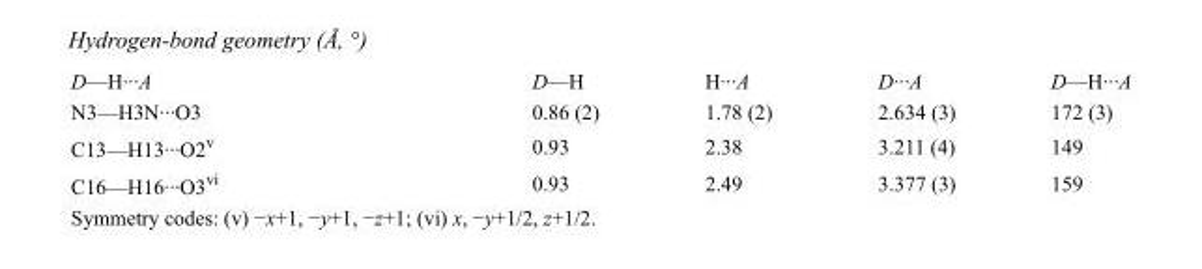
<table><tbody><tr><td>D—H···A</td><td>D—H</td><td>H···A</td><td>D···A</td><td>D—H···A</td></tr><tr><td>N3—H3N···O3</td><td>0.86 (2)</td><td>1.78 (2)</td><td>2.634 (3)</td><td>172 (3)</td></tr><tr><td>C13—H13···O2<sup>v</sup></td><td>0.93</td><td>2.38</td><td>3.211 (4)</td><td>149</td></tr><tr><td>C16—H16···O3<sup>vi</sup></td><td>0.93</td><td>2.49</td><td>3.377 (3)</td><td>159</td></tr></tbody></table>